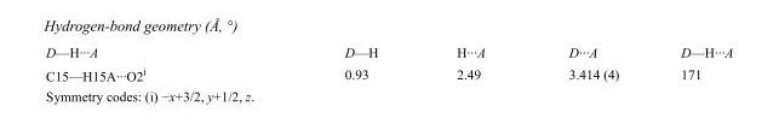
<table><tbody><tr><td>D—H···A</td><td>D—H</td><td>H···A</td><td>D···A</td><td>D—H···A</td></tr><tr><td>C15—H15A···O2<sup>i</sup></td><td>0.93</td><td>2.49</td><td>3.414 (4)</td><td>171</td></tr></tbody></table>